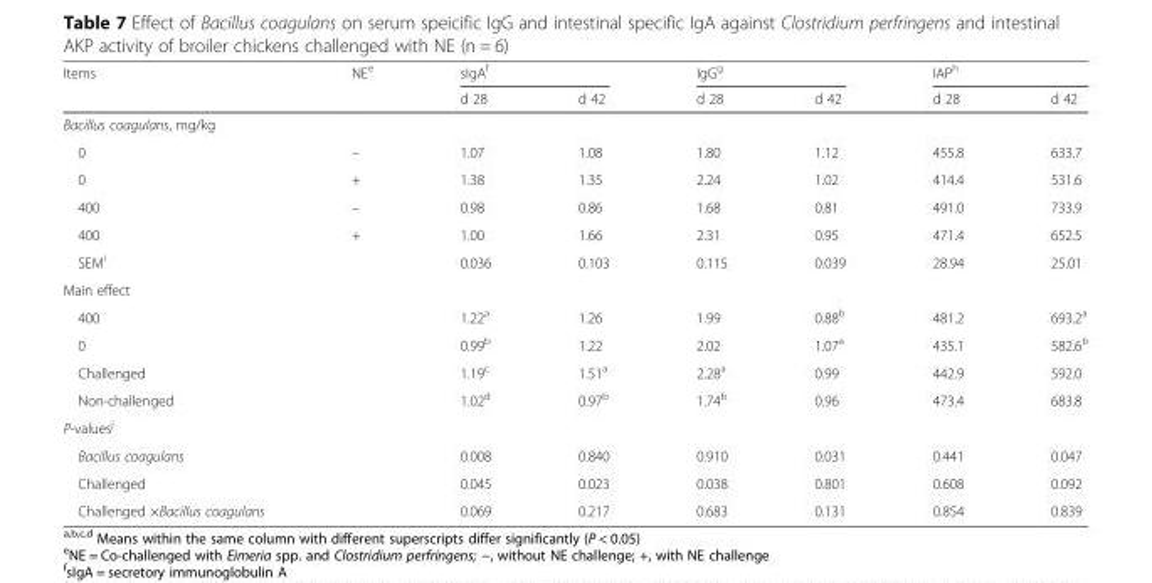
<table><thead><tr><td rowspan="2">Items</td><td rowspan="2">NE<sup>e</sup></td><td colspan="2">sIgA<sup>f</sup></td><td colspan="2">IgG<sup>g</sup></td><td colspan="2">IAP<sup>h</sup></td></tr><tr><td>d 28</td><td>d 42</td><td>d 28</td><td>d 42</td><td>d 28</td><td>d 42</td></tr></thead><tbody><tr><td colspan="8">Bacillus coagulans, mg/kg</td></tr><tr><td>0</td><td>–</td><td>1.07</td><td>1.08</td><td>1.80</td><td>1.12</td><td>455.8</td><td>633.7</td></tr><tr><td>0</td><td>+</td><td>1.38</td><td>1.35</td><td>2.24</td><td>1.02</td><td>414.4</td><td>531.6</td></tr><tr><td>400</td><td>–</td><td>0.98</td><td>0.86</td><td>1.68</td><td>0.81</td><td>491.0</td><td>733.9</td></tr><tr><td>400</td><td>+</td><td>1.00</td><td>1.66</td><td>2.31</td><td>0.95</td><td>471.4</td><td>652.5</td></tr><tr><td>SEM<sup>i</sup></td><td></td><td>0.036</td><td>0.103</td><td>0.115</td><td>0.039</td><td>28.94</td><td>25.01</td></tr><tr><td colspan="8">Main effect</td></tr><tr><td>400</td><td></td><td>1.22<sup>a</sup></td><td>1.26</td><td>1.99</td><td>0.88<sup>b</sup></td><td>481.2</td><td>693.2<sup>a</sup></td></tr><tr><td>0</td><td></td><td>0.99<sup>b</sup></td><td>1.22</td><td>2.02</td><td>1.07<sup>a</sup></td><td>435.1</td><td>582.6<sup>b</sup></td></tr><tr><td>Challenged</td><td></td><td>1.19<sup>c</sup></td><td>1.51<sup>a</sup></td><td>2.28<sup>a</sup></td><td>0.99</td><td>442.9</td><td>592.0</td></tr><tr><td>Non-challenged</td><td></td><td>1.02<sup>d</sup></td><td>0.97<sup>b</sup></td><td>1.74<sup>b</sup></td><td>0.96</td><td>473.4</td><td>683.8</td></tr><tr><td colspan="8">P-values<sup>j</sup></td></tr><tr><td>Bacillus coagulans</td><td></td><td>0.008</td><td>0.840</td><td>0.910</td><td>0.031</td><td>0.441</td><td>0.047</td></tr><tr><td>Challenged</td><td></td><td>0.045</td><td>0.023</td><td>0.038</td><td>0.801</td><td>0.608</td><td>0.092</td></tr><tr><td>Challenged ×Bacillus coagulans</td><td></td><td>0.069</td><td>0.217</td><td>0.683</td><td>0.131</td><td>0.854</td><td>0.839</td></tr></tbody></table>